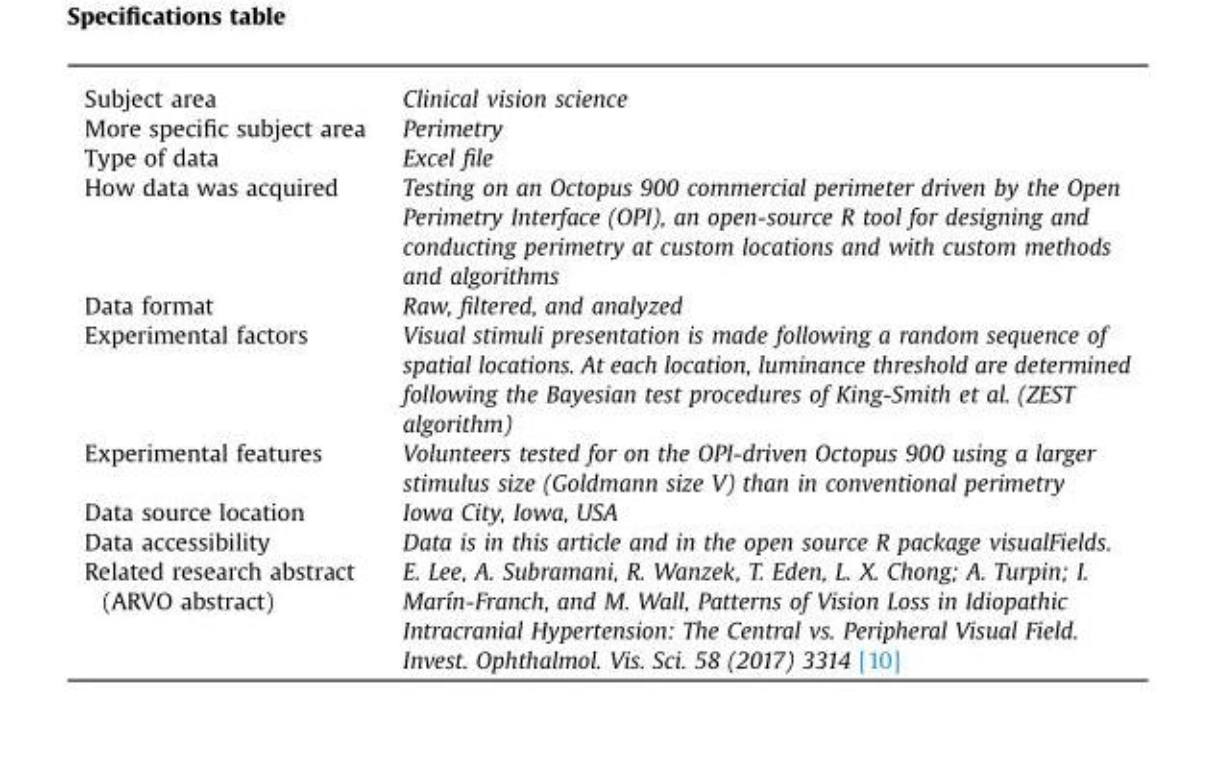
<table><tbody><tr><td>Subject area</td><td>Clinical vision science</td></tr><tr><td>More specific subject area</td><td>Perimetry</td></tr><tr><td>Type of data</td><td>Excel file</td></tr><tr><td>How data was acquired</td><td>Testing on an Octopus 900 commercial perimeter driven by the Open Perimetry Interface (OPI), an open-source R tool for designing and conducting perimetry at custom locations and with custom methods and algorithms</td></tr><tr><td>Data format</td><td>Raw, filtered, and analyzed</td></tr><tr><td>Experimental factors</td><td>Visual stimuli presentation is made following a random sequence of spatial locations. At each location, luminance threshold are determined following the Bayesian test procedures of King-Smith et al. (ZEST algorithm)</td></tr><tr><td>Experimental features</td><td>Volunteers tested for on the OPI-driven Octopus 900 using a larger stimulus size (Goldmann size V) than in conventional perimetry</td></tr><tr><td>Data source location</td><td>Iowa City, Iowa, USA</td></tr><tr><td>Data accessibility</td><td>Data is in this article and in the open source R package visualFields.</td></tr><tr><td>Related research abstract (ARVO abstract)</td><td>E. Lee, A. Subramani, R. Wanzek, T. Eden, L. X. Chong; A. Turpin; I. Marín-Franch, and M. Wall, Patterns of Vision Loss in Idiopathic Intracranial Hypertension: The Central vs. Peripheral Visual Field. Invest. Ophthalmol. Vis. Sci. 58 (2017) 3314 [10]</td></tr></tbody></table>